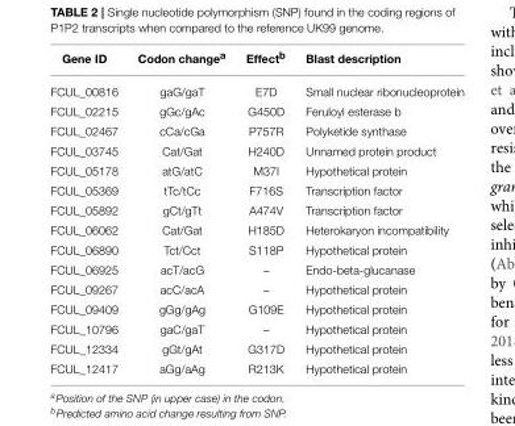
<table><thead><tr><td>Gene ID</td><td>Codon change<sup>a</sup></td><td>Effect<sup>b</sup></td><td>Blast description</td></tr></thead><tbody><tr><td>FCUL_00816</td><td>gaG/gaT</td><td>E7D</td><td>Small nuclear ribonucleoprotein</td></tr><tr><td>FCUL_02215</td><td>gGc/gAc</td><td>G450D</td><td>Feruloyl esterase b</td></tr><tr><td>FCUL_02467</td><td>cCa/cGa</td><td>P757R</td><td>Polyketide synthase</td></tr><tr><td>FCUL_03745</td><td>Cat/Gat</td><td>H240D</td><td>Unnamed protein product</td></tr><tr><td>FCUL_05178</td><td>atG/atC</td><td>M37I</td><td>Hypothetical protein</td></tr><tr><td>FCUL_05369</td><td>tTc/tCc</td><td>F716S</td><td>Transcription factor</td></tr><tr><td>FCUL_05892</td><td>gCt/gTt</td><td>A474V</td><td>Transcription factor</td></tr><tr><td>FCUL_06062</td><td>Cat/Gat</td><td>H185D</td><td>Heterokaryon incompatibility</td></tr><tr><td>FCUL_06890</td><td>Tct/Cct</td><td>S118P</td><td>Hypothetical protein</td></tr><tr><td>FCUL_06925</td><td>acT/acG</td><td>–</td><td>Endo-beta-glucanase</td></tr><tr><td>FCUL_09267</td><td>acC/acA</td><td>–</td><td>Hypothetical protein</td></tr><tr><td>FCUL_09409</td><td>gGg/gAg</td><td>G109E</td><td>Hypothetical protein</td></tr><tr><td>FCUL_10796</td><td>gaC/gaT</td><td>–</td><td>Hypothetical protein</td></tr><tr><td>FCUL_12334</td><td>gGt/gAt</td><td>G317D</td><td>Hypothetical protein</td></tr><tr><td>FCUL_12417</td><td>aGg/aAg</td><td>R213K</td><td>Hypothetical protein</td></tr></tbody></table>